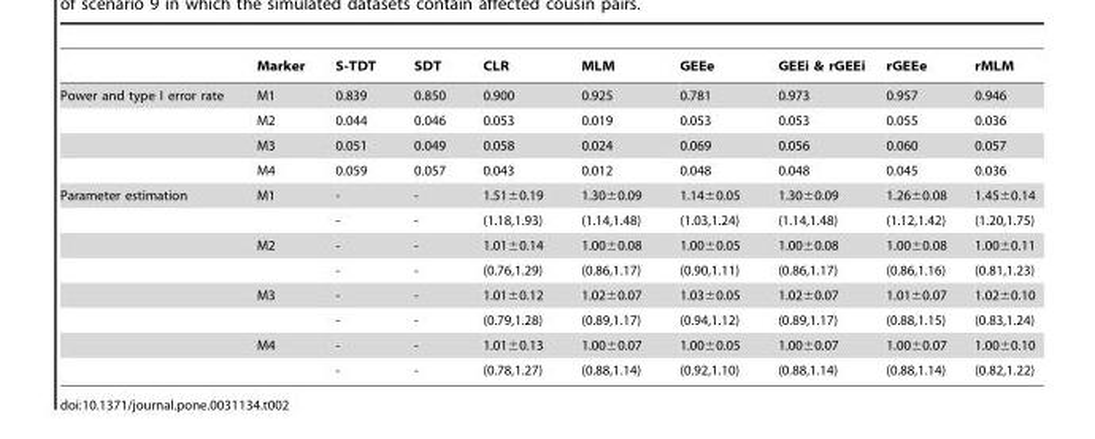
<table><thead><tr><td></td><td>Marker</td><td>S-TDT</td><td>SDT</td><td>CLR</td><td>MLM</td><td>GEEe</td><td>GEEi &amp; rGEEi</td><td>rGEEe</td><td>rMLM</td></tr></thead><tbody><tr><td rowspan="4">Power and type I error rate</td><td>M1</td><td>0.839</td><td>0.850</td><td>0.900</td><td>0.925</td><td>0.781</td><td>0.973</td><td>0.957</td><td>0.946</td></tr><tr><td>M2</td><td>0.044</td><td>0.046</td><td>0.053</td><td>0.019</td><td>0.053</td><td>0.053</td><td>0.055</td><td>0.036</td></tr><tr><td>M3</td><td>0.051</td><td>0.049</td><td>0.058</td><td>0.024</td><td>0.069</td><td>0.056</td><td>0.060</td><td>0.057</td></tr><tr><td>M4</td><td>0.059</td><td>0.057</td><td>0.043</td><td>0.012</td><td>0.048</td><td>0.048</td><td>0.045</td><td>0.036</td></tr><tr><td rowspan="8">Parameter estimation</td><td>M1</td><td>-</td><td>-</td><td>1.51±0.19</td><td>1.30±0.09</td><td>1.14±0.05</td><td>1.30±0.09</td><td>1.26±0.08</td><td>1.45±0.14</td></tr><tr><td></td><td>-</td><td>-</td><td>(1.18,1.93)</td><td>(1.14,1.48)</td><td>(1.03,1.24)</td><td>(1.14,1.48)</td><td>(1.12,1.42)</td><td>(1.20,1.75)</td></tr><tr><td>M2</td><td>-</td><td>-</td><td>1.01±0.14</td><td>1.00±0.08</td><td>1.00±0.05</td><td>1.00±0.08</td><td>1.00±0.08</td><td>1.00±0.11</td></tr><tr><td></td><td>-</td><td>-</td><td>(0.76,1.29)</td><td>(0.86,1.17)</td><td>(0.90,1.11)</td><td>(0.86,1.17)</td><td>(0.86,1.16)</td><td>(0.81,1.23)</td></tr><tr><td>M3</td><td>-</td><td>-</td><td>1.01±0.12</td><td>1.02±0.07</td><td>1.03±0.05</td><td>1.02±0.07</td><td>1.01±0.07</td><td>1.02±0.10</td></tr><tr><td></td><td>-</td><td>-</td><td>(0.79,1.28)</td><td>(0.89,1.17)</td><td>(0.94,1.12)</td><td>(0.89,1.17)</td><td>(0.88,1.15)</td><td>(0.83,1.24)</td></tr><tr><td>M4</td><td>-</td><td>-</td><td>1.01±0.13</td><td>1.00±0.07</td><td>1.00±0.05</td><td>1.00±0.07</td><td>1.00±0.07</td><td>1.00±0.10</td></tr><tr><td></td><td>-</td><td>-</td><td>(0.78,1.27)</td><td>(0.88,1.14)</td><td>(0.92,1.10)</td><td>(0.88,1.14)</td><td>(0.88,1.14)</td><td>(0.82,1.22)</td></tr></tbody></table>